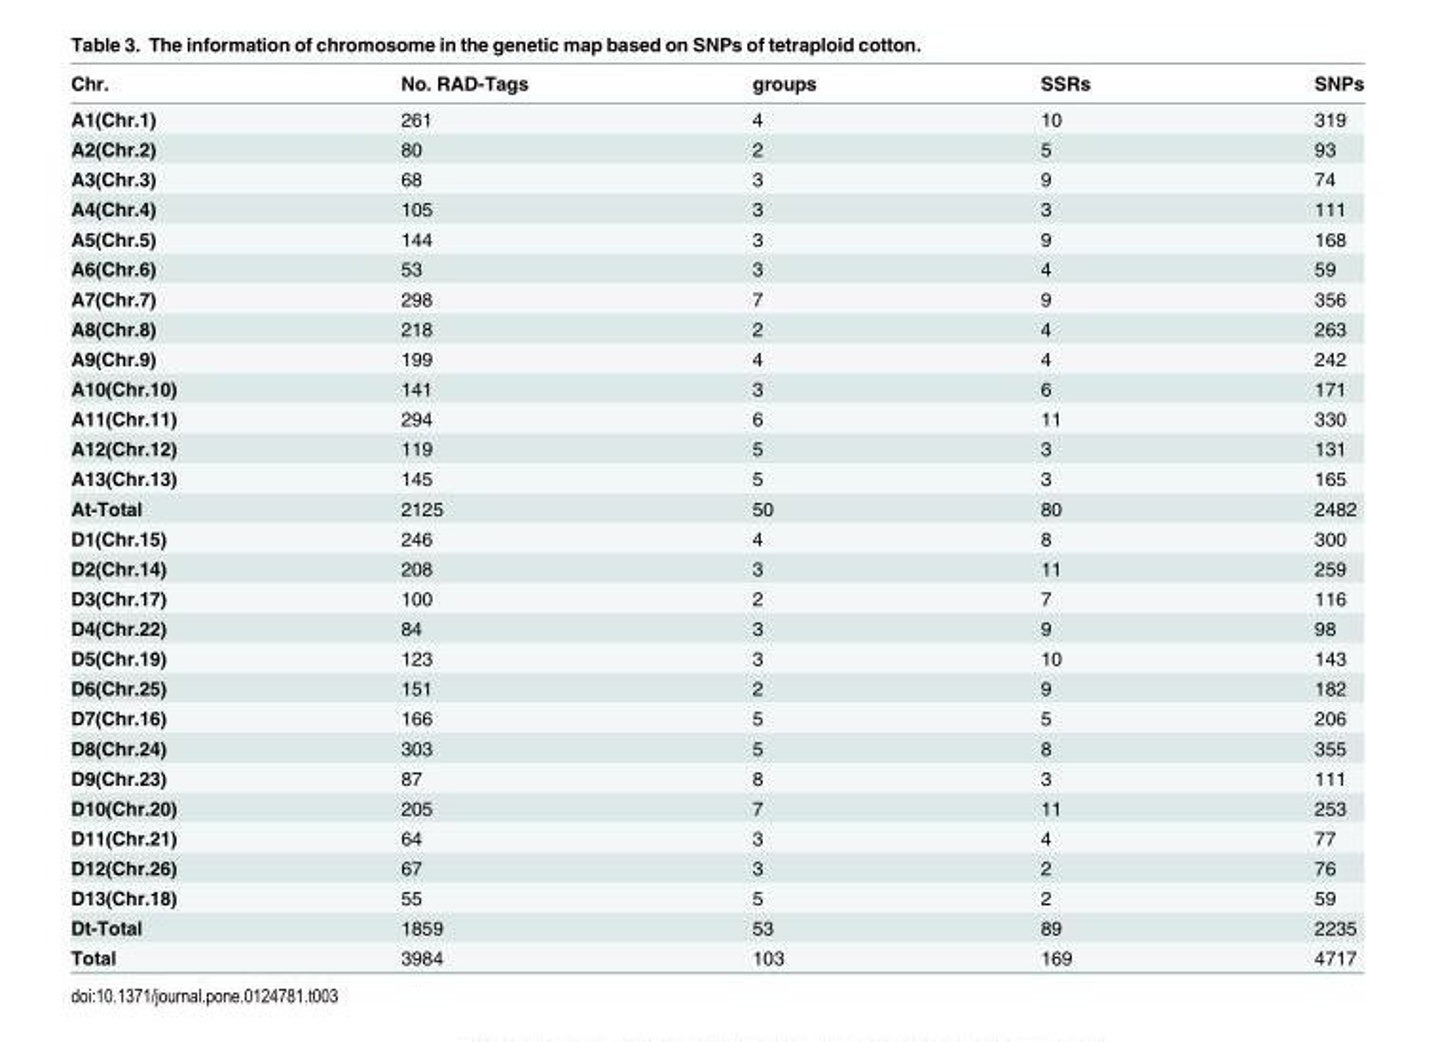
<table><thead><tr><td>Chr.</td><td>No. RAD-Tags</td><td>groups</td><td>SSRs</td><td>SNPs</td></tr></thead><tbody><tr><td>A1(Chr.1)</td><td>261</td><td>4</td><td>10</td><td>319</td></tr><tr><td>A2(Chr.2)</td><td>80</td><td>2</td><td>5</td><td>93</td></tr><tr><td>A3(Chr.3)</td><td>68</td><td>3</td><td>9</td><td>74</td></tr><tr><td>A4(Chr.4)</td><td>105</td><td>3</td><td>3</td><td>111</td></tr><tr><td>A5(Chr.5)</td><td>144</td><td>3</td><td>9</td><td>168</td></tr><tr><td>A6(Chr.6)</td><td>53</td><td>3</td><td>4</td><td>59</td></tr><tr><td>A7(Chr.7)</td><td>298</td><td>7</td><td>9</td><td>356</td></tr><tr><td>A8(Chr.8)</td><td>218</td><td>2</td><td>4</td><td>263</td></tr><tr><td>A9(Chr.9)</td><td>199</td><td>4</td><td>4</td><td>242</td></tr><tr><td>A10(Chr.10)</td><td>141</td><td>3</td><td>6</td><td>171</td></tr><tr><td>A11(Chr.11)</td><td>294</td><td>6</td><td>11</td><td>330</td></tr><tr><td>A12(Chr.12)</td><td>119</td><td>5</td><td>3</td><td>131</td></tr><tr><td>A13(Chr.13)</td><td>145</td><td>5</td><td>3</td><td>165</td></tr><tr><td>At-Total</td><td>2125</td><td>50</td><td>80</td><td>2482</td></tr><tr><td>D1(Chr.15)</td><td>246</td><td>4</td><td>8</td><td>300</td></tr><tr><td>D2(Chr.14)</td><td>208</td><td>3</td><td>11</td><td>259</td></tr><tr><td>D3(Chr.17)</td><td>100</td><td>2</td><td>7</td><td>116</td></tr><tr><td>D4(Chr.22)</td><td>84</td><td>3</td><td>9</td><td>98</td></tr><tr><td>D5(Chr.19)</td><td>123</td><td>3</td><td>10</td><td>143</td></tr><tr><td>D6(Chr.25)</td><td>151</td><td>2</td><td>9</td><td>182</td></tr><tr><td>D7(Chr.16)</td><td>166</td><td>5</td><td>5</td><td>206</td></tr><tr><td>D8(Chr.24)</td><td>303</td><td>5</td><td>8</td><td>355</td></tr><tr><td>D9(Chr.23)</td><td>87</td><td>8</td><td>3</td><td>111</td></tr><tr><td>D10(Chr.20)</td><td>205</td><td>7</td><td>11</td><td>253</td></tr><tr><td>D11(Chr.21)</td><td>64</td><td>3</td><td>4</td><td>77</td></tr><tr><td>D12(Chr.26)</td><td>67</td><td>3</td><td>2</td><td>76</td></tr><tr><td>D13(Chr.18)</td><td>55</td><td>5</td><td>2</td><td>59</td></tr><tr><td>Dt-Total</td><td>1859</td><td>53</td><td>89</td><td>2235</td></tr><tr><td>Total</td><td>3984</td><td>103</td><td>169</td><td>4717</td></tr></tbody></table>